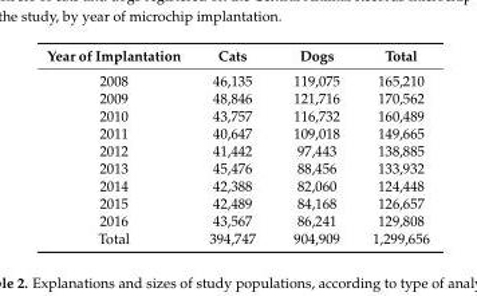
<table><thead><tr><td>Year of Implantation</td><td>Cats</td><td>Dogs</td><td>Total</td></tr></thead><tbody><tr><td>2008</td><td>46,135</td><td>119,075</td><td>165,210</td></tr><tr><td>2009</td><td>48,846</td><td>121,716</td><td>170,562</td></tr><tr><td>2010</td><td>43,757</td><td>116,732</td><td>160,489</td></tr><tr><td>2011</td><td>40,647</td><td>109,018</td><td>149,665</td></tr><tr><td>2012</td><td>41,442</td><td>97,443</td><td>138,885</td></tr><tr><td>2013</td><td>45,476</td><td>88,456</td><td>133,932</td></tr><tr><td>2014</td><td>42,388</td><td>82,060</td><td>124,448</td></tr><tr><td>2015</td><td>42,489</td><td>84,168</td><td>126,657</td></tr><tr><td>2016</td><td>43,567</td><td>86,241</td><td>129,808</td></tr><tr><td>Total</td><td>394,747</td><td>904,909</td><td>1,299,656</td></tr></tbody></table>